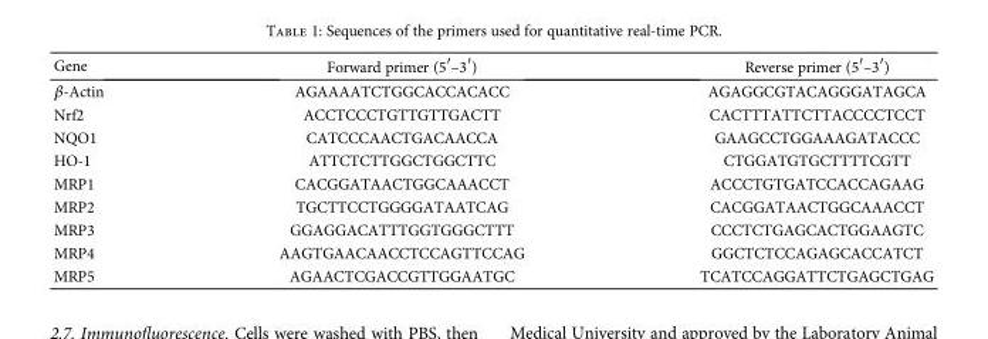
<table><thead><tr><td>Gene</td><td>Forward primer (5′–3′)</td><td>Reverse primer (5′–3′)</td></tr></thead><tbody><tr><td>β-Actin</td><td>AGAAAATCTGGCACCACACC</td><td>AGAGGCGTACAGGGATAGCA</td></tr><tr><td>Nrf2</td><td>ACCTCCCTGTTGTTGACTT</td><td>CACTTTATTCTTACCCCTCCT</td></tr><tr><td>NQO1</td><td>CATCCCAACTGACAACCA</td><td>GAAGCCTGGAAAGATACCC</td></tr><tr><td>HO-1</td><td>ATTCTCTTGGCTGGCTTC</td><td>CTGGATGTGCTTTTCGTT</td></tr><tr><td>MRP1</td><td>CACGGATAACTGGCAAACCT</td><td>ACCCTGTGATCCACCAGAAG</td></tr><tr><td>MRP2</td><td>TGCTTCCTGGGGATAATCAG</td><td>CACGGATAACTGGCAAACCT</td></tr><tr><td>MRP3</td><td>GGAGGACATTTGGTGGGCTTT</td><td>CCCTCTGAGCACTGGAAGTC</td></tr><tr><td>MRP4</td><td>AAGTGAACAACCTCCAGTTCCAG</td><td>GGCTCTCCAGAGCACCATCT</td></tr><tr><td>MRP5</td><td>AGAACTCGACCGTTGGAATGC</td><td>TCATCCAGGATTCTGAGCTGAG</td></tr></tbody></table>